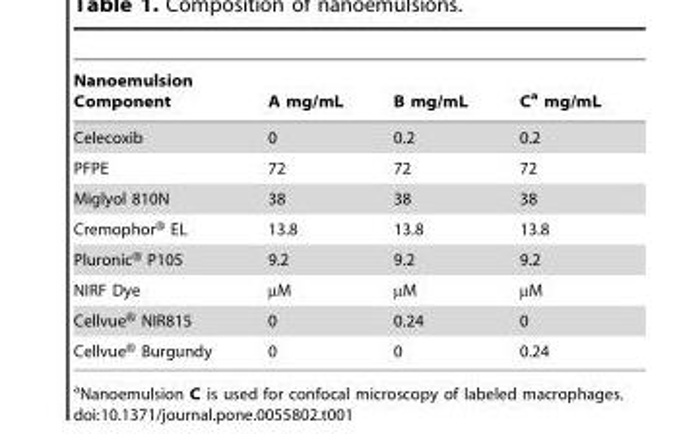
<table><thead><tr><td>Nanoemulsion Component</td><td>A mg/mL</td><td>B mg/mL</td><td>C<sup>a</sup> mg/mL</td></tr></thead><tbody><tr><td>Celecoxib</td><td>0</td><td>0.2</td><td>0.2</td></tr><tr><td>PFPE</td><td>72</td><td>72</td><td>72</td></tr><tr><td>Miglyol 810N</td><td>38</td><td>38</td><td>38</td></tr><tr><td>Cremophor® EL</td><td>13.8</td><td>13.8</td><td>13.8</td></tr><tr><td>Pluronic® P105</td><td>9.2</td><td>9.2</td><td>9.2</td></tr><tr><td>NIRF Dye</td><td>µM</td><td>µM</td><td>µM</td></tr><tr><td>Cellvue® NIR815</td><td>0</td><td>0.24</td><td>0</td></tr><tr><td>Cellvue® Burgundy</td><td>0</td><td>0</td><td>0.24</td></tr></tbody></table>